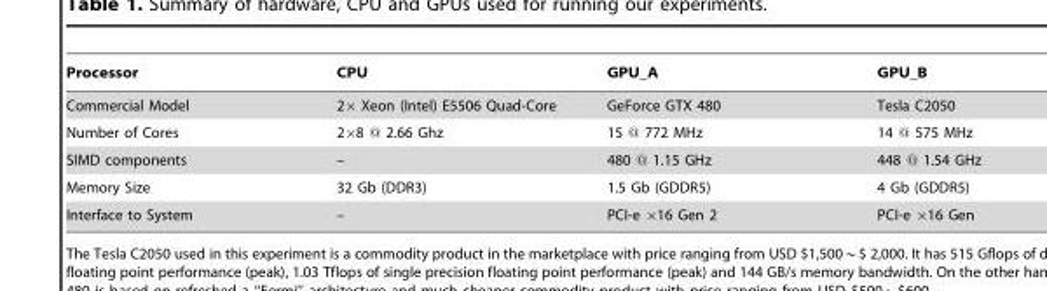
<table><thead><tr><td>Processor</td><td>CPU</td><td>GPU_A</td><td>GPU_B</td></tr></thead><tbody><tr><td>Commercial Model</td><td>2× Xeon (Intel) E5506 Quad-Core</td><td>GeForce GTX 480</td><td>Tesla C2050</td></tr><tr><td>Number of Cores</td><td>268 @ 2.66 Ghz</td><td>15 @ 772 MHz</td><td>14 @ 575 MHz</td></tr><tr><td>SIMD components</td><td>–</td><td>480 @ 1.15 GHz</td><td>448 @ 1.54 GHz</td></tr><tr><td>Memory Size</td><td>32 Gb (DDR3)</td><td>1.5 Gb (GDDR5)</td><td>4 Gb (GDDR5)</td></tr><tr><td>Interface to System</td><td>–</td><td>PCI-e ×16 Gen 2</td><td>PCI-e ×16 Gen</td></tr></tbody></table>